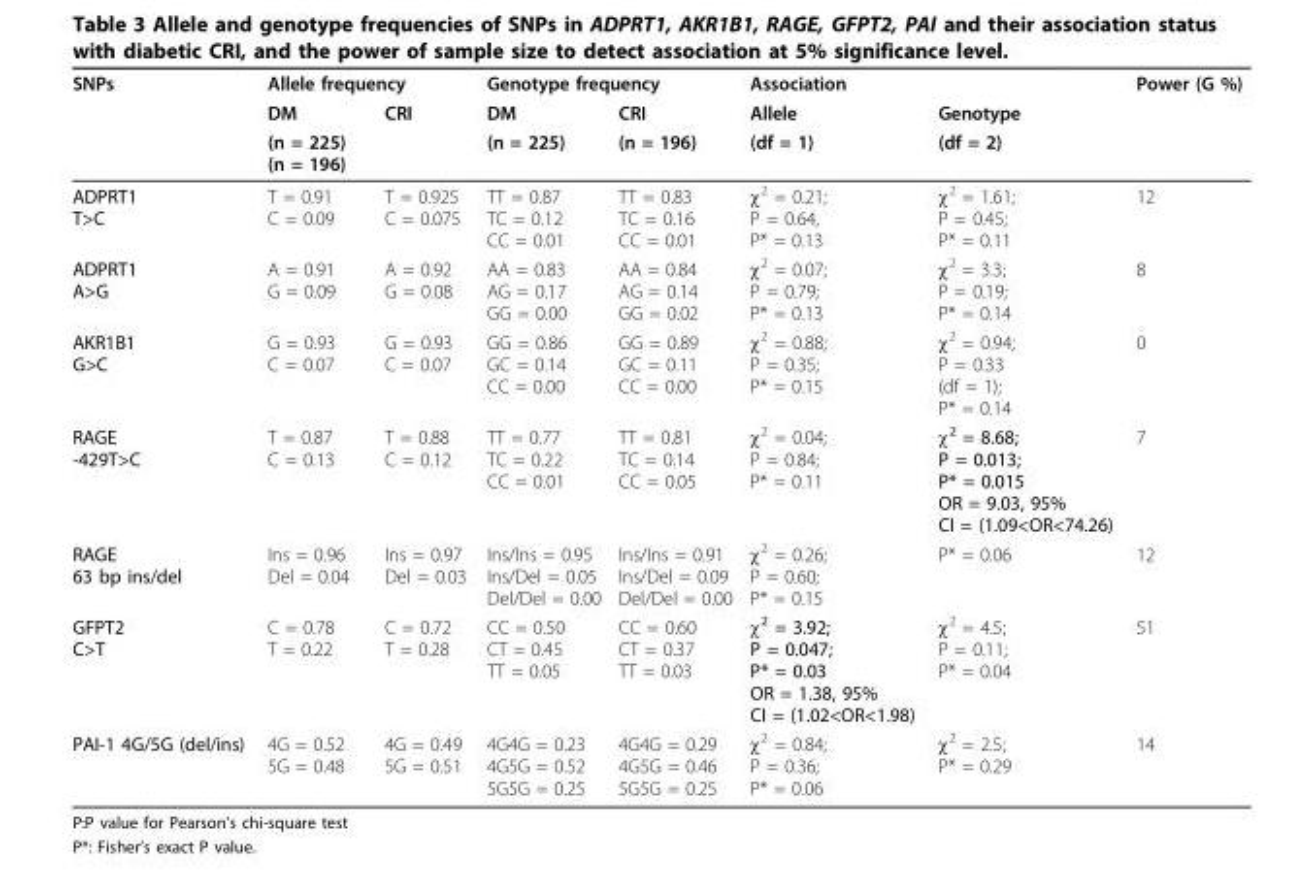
<table><thead><tr><td rowspan="3">SNPs</td><td colspan="2">Allele frequency</td><td colspan="2">Genotype frequency</td><td colspan="2">Association</td><td rowspan="3">Power (G %)</td></tr><tr><td rowspan="2">DM (n = 225) (n = 196)</td><td rowspan="2">CRI</td><td rowspan="2">DM (n = 225)</td><td rowspan="2">CRI (n = 196)</td><td rowspan="2">Allele (df = 1)</td><td rowspan="2">Genotype (df = 2)</td></tr><tr></tr></thead><tbody><tr><td>ADPRT1 T&gt;C</td><td>T = 0.91 C = 0.09</td><td>T = 0.925 C = 0.075</td><td>TT = 0.87 TC = 0.12 CC = 0.01</td><td>TT = 0.83 TC = 0.16 CC = 0.01</td><td>χ<sup>2</sup> = 0.21; P = 0.64, P* = 0.13</td><td>χ<sup>2</sup> = 1.61; P = 0.45; P* = 0.11</td><td>12</td></tr><tr><td>ADPRT1 A&gt;G</td><td>A = 0.91 G = 0.09</td><td>A = 0.92 G = 0.08</td><td>AA = 0.83 AG = 0.17 GG = 0.00</td><td>AA = 0.84 AG = 0.14 GG = 0.02</td><td>χ<sup>2</sup> = 0.07; P = 0.79; P* = 0.13</td><td>χ<sup>2</sup> = 3.3; P = 0.19; P* = 0.14</td><td>8</td></tr><tr><td>AKR1B1 G&gt;C</td><td>G = 0.93 C = 0.07</td><td>G = 0.93 C = 0.07</td><td>GG = 0.86 GC = 0.14 CC = 0.00</td><td>GG = 0.89 GC = 0.11 CC = 0.00</td><td>χ<sup>2</sup> = 0.88; P = 0.35; P* = 0.15</td><td>χ<sup>2</sup> = 0.94; P = 0.33 (df = 1); P* = 0.14</td><td>0</td></tr><tr><td>RAGE -429T&gt;C</td><td>T = 0.87 C = 0.13</td><td>T = 0.88 C = 0.12</td><td>TT = 0.77 TC = 0.22 CC = 0.01</td><td>TT = 0.81 TC = 0.14 CC = 0.05</td><td>χ<sup>2</sup> = 0.04; P = 0.84; P* = 0.11</td><td>χ<sup>2</sup> = 8.68; P = 0.013; P* = 0.015 OR = 9.03, 95% CI = (1.09&lt;OR&lt;74.26)</td><td>7</td></tr><tr><td>RAGE 63 bp ins/del</td><td>Ins = 0.96 Del = 0.04</td><td>Ins = 0.97 Del = 0.03</td><td>Ins/Ins = 0.95 Ins/Del = 0.05 Del/Del = 0.00</td><td>Ins/Ins = 0.91 Ins/Del = 0.09 Del/Del = 0.00</td><td>χ<sup>2</sup> = 0.26; P = 0.60; P* = 0.15</td><td>P* = 0.06</td><td>12</td></tr><tr><td>GFPT2 C&gt;T</td><td>C = 0.78 T = 0.22</td><td>C = 0.72 T = 0.28</td><td>CC = 0.50 CT = 0.45 TT = 0.05</td><td>CC = 0.60 CT = 0.37 TT = 0.03</td><td>χ<sup>2</sup> = 3.92; P = 0.047; P* = 0.03 OR = 1.38, 95% CI = (1.02&lt;OR&lt;1.98)</td><td>χ<sup>2</sup> = 4.5; P = 0.11; P* = 0.04</td><td>51</td></tr><tr><td>PAI-1 4G/5G (del/ins)</td><td>4G = 0.52 5G = 0.48</td><td>4G = 0.49 5G = 0.51</td><td>4G4G = 0.23 4G5G = 0.52 5G5G = 0.25</td><td>4G4G = 0.29 4G5G = 0.46 5G5G = 0.25</td><td>χ<sup>2</sup> = 0.84; P = 0.36; P* = 0.06</td><td>χ<sup>2</sup> = 2.5; P* = 0.29</td><td>14</td></tr></tbody></table>